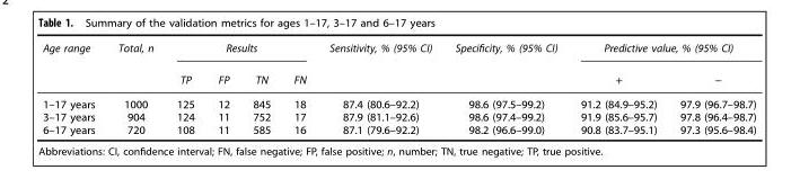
<table><thead><tr><td rowspan="2">Age range</td><td rowspan="2">Total, n</td><td colspan="4">Results</td><td rowspan="2">Sensitivity, % (95% CI)</td><td rowspan="2">Specificity, % (95% CI)</td><td colspan="2">Predictive value, % (95% CI)</td></tr><tr><td>TP</td><td>FP</td><td>TN</td><td>FN</td><td>+</td><td>−</td></tr></thead><tbody><tr><td>1–17 years</td><td>1000</td><td>125</td><td>12</td><td>845</td><td>18</td><td>87.4 (80.6–92.2)</td><td>98.6 (97.5–99.2)</td><td>91.2 (84.9–95.2)</td><td>97.9 (96.7–98.7)</td></tr><tr><td>3–17 years</td><td>904</td><td>124</td><td>11</td><td>752</td><td>17</td><td>87.9 (81.1–92.6)</td><td>98.6 (97.4–99.2)</td><td>91.9 (85.6–95.7)</td><td>97.8 (96.4–98.7)</td></tr><tr><td>6–17 years</td><td>720</td><td>108</td><td>11</td><td>585</td><td>16</td><td>87.1 (79.6–92.2)</td><td>98.2 (96.6–99.0)</td><td>90.8 (83.7–95.1)</td><td>97.3 (95.6–98.4)</td></tr></tbody></table>